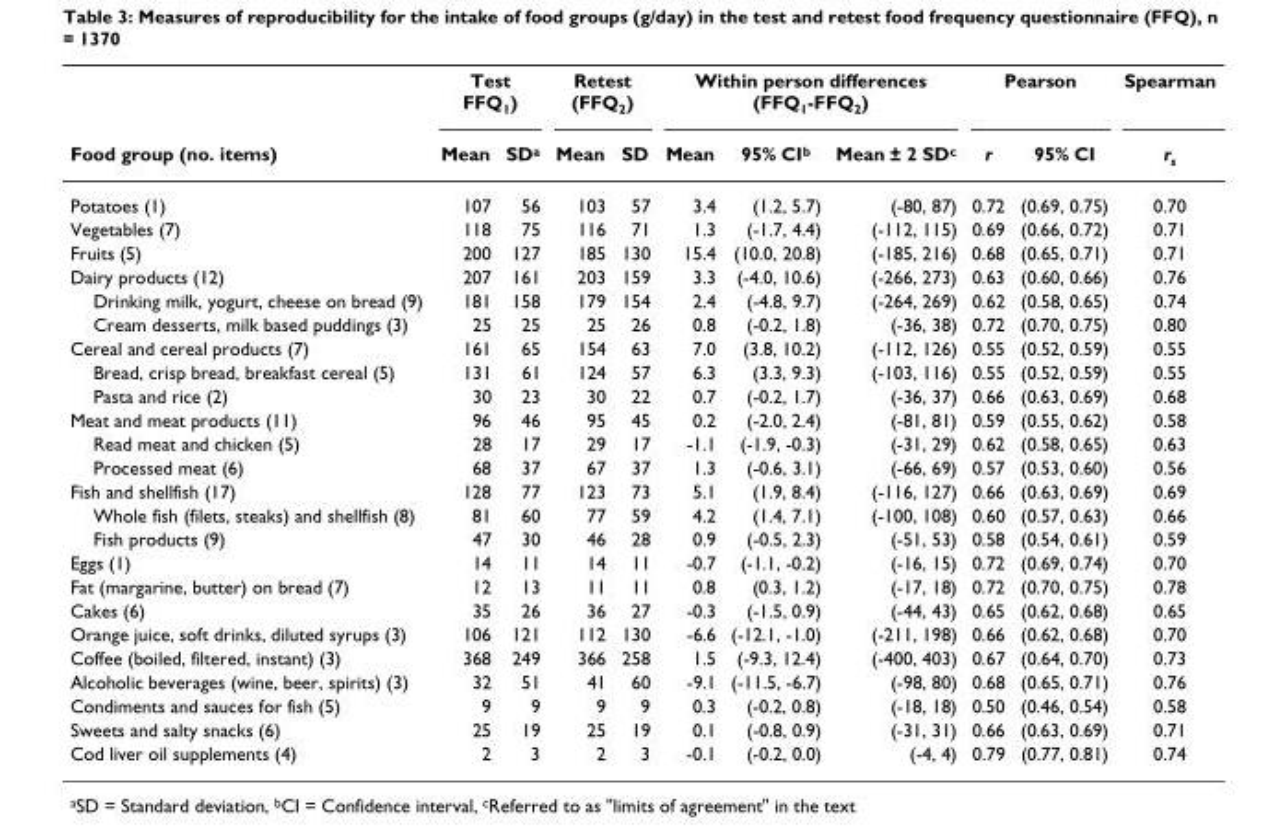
<table><thead><tr><td rowspan="2">Food group (no. items)</td><td colspan="2">Test FFQ1)</td><td colspan="2">Retest (FFQ<sub>2</sub>)</td><td colspan="3">Within person differences (FFQ<sub>1</sub>-FFQ<sub>2</sub>)</td><td colspan="2">Pearson</td><td rowspan="2">Spearman r<sub>s</sub></td></tr><tr><td>Mean</td><td>SD<sup>a</sup></td><td>Mean</td><td>SD</td><td>Mean</td><td>95% CI<sup>b</sup></td><td>Mean ± 2 SD<sup>c</sup></td><td>r</td><td>95% CI</td></tr></thead><tbody><tr><td>Potatoes (1)</td><td>107</td><td>56</td><td>103</td><td>57</td><td>3.4</td><td>(1.2, 5.7)</td><td>(-80, 87)</td><td>0.72</td><td>(0.69, 0.75)</td><td>0.70</td></tr><tr><td>Vegetables (7)</td><td>118</td><td>75</td><td>116</td><td>71</td><td>1.3</td><td>(-1.7, 4.4)</td><td>(-112, 115)</td><td>0.69</td><td>(0.66, 0.72)</td><td>0.71</td></tr><tr><td>Fruits (5)</td><td>200</td><td>127</td><td>185</td><td>130</td><td>15.4</td><td>(10.0, 20.8)</td><td>(-185, 216)</td><td>0.68</td><td>(0.65, 0.71)</td><td>0.71</td></tr><tr><td>Dairy products (12)</td><td>207</td><td>161</td><td>203</td><td>159</td><td>3.3</td><td>(-4.0, 10.6)</td><td>(-266, 273)</td><td>0.63</td><td>(0.60, 0.66)</td><td>0.76</td></tr><tr><td>Drinking milk, yogurt, cheese on bread (9)</td><td>181</td><td>158</td><td>179</td><td>154</td><td>2.4</td><td>(-4.8, 9.7)</td><td>(-264, 269)</td><td>0.62</td><td>(0.58, 0.65)</td><td>0.74</td></tr><tr><td>Cream desserts, milk based puddings (3)</td><td>25</td><td>25</td><td>25</td><td>26</td><td>0.8</td><td>(-0.2, 1.8)</td><td>(-36, 38)</td><td>0.72</td><td>(0.70, 0.75)</td><td>0.80</td></tr><tr><td>Cereal and cereal products (7)</td><td>161</td><td>65</td><td>154</td><td>63</td><td>7.0</td><td>(3.8, 10.2)</td><td>(-112, 126)</td><td>0.55</td><td>(0.52, 0.59)</td><td>0.55</td></tr><tr><td>Bread, crisp bread, breakfast cereal (5)</td><td>131</td><td>61</td><td>124</td><td>57</td><td>6.3</td><td>(3.3, 9.3)</td><td>(-103, 116)</td><td>0.55</td><td>(0.52, 0.59)</td><td>0.55</td></tr><tr><td>Pasta and rice (2)</td><td>30</td><td>23</td><td>30</td><td>22</td><td>0.7</td><td>(-0.2, 1.7)</td><td>(-36, 37)</td><td>0.66</td><td>(0.63, 0.69)</td><td>0.68</td></tr><tr><td>Meat and meat products (11)</td><td>96</td><td>46</td><td>95</td><td>45</td><td>0.2</td><td>(-2.0, 2.4)</td><td>(-81, 81)</td><td>0.59</td><td>(0.55, 0.62)</td><td>0.58</td></tr><tr><td>Read meat and chicken (5)</td><td>28</td><td>17</td><td>29</td><td>17</td><td>-1.1</td><td>(-1.9, -0.3)</td><td>(-31, 29)</td><td>0.62</td><td>(0.58, 0.65)</td><td>0.63</td></tr><tr><td>Processed meat (6)</td><td>68</td><td>37</td><td>67</td><td>37</td><td>1.3</td><td>(-0.6, 3.1)</td><td>(-66, 69)</td><td>0.57</td><td>(0.53, 0.60)</td><td>0.56</td></tr><tr><td>Fish and shellfish (17)</td><td>128</td><td>77</td><td>123</td><td>73</td><td>5.1</td><td>(1.9, 8.4)</td><td>(-116, 127)</td><td>0.66</td><td>(0.63, 0.69)</td><td>0.69</td></tr><tr><td>Whole fish (filets, steaks) and shellfish (8)</td><td>81</td><td>60</td><td>77</td><td>59</td><td>4.2</td><td>(1.4, 7.1)</td><td>(-100, 108)</td><td>0.60</td><td>(0.57, 0.63)</td><td>0.66</td></tr><tr><td>Fish products (9)</td><td>47</td><td>30</td><td>46</td><td>28</td><td>0.9</td><td>(-0.5, 2.3)</td><td>(-51, 53)</td><td>0.58</td><td>(0.54, 0.61)</td><td>0.59</td></tr><tr><td>Eggs (1)</td><td>14</td><td>11</td><td>14</td><td>11</td><td>-0.7</td><td>(-1.1, -0.2)</td><td>(-16, 15)</td><td>0.72</td><td>(0.69, 0.74)</td><td>0.70</td></tr><tr><td>Fat (margarine, butter) on bread (7)</td><td>12</td><td>13</td><td>11</td><td>11</td><td>0.8</td><td>(0.3, 1.2)</td><td>(-17, 18)</td><td>0.72</td><td>(0.70, 0.75)</td><td>0.78</td></tr><tr><td>Cakes (6)</td><td>35</td><td>26</td><td>36</td><td>27</td><td>-0.3</td><td>(-1.5, 0.9)</td><td>(-44, 43)</td><td>0.65</td><td>(0.62, 0.68)</td><td>0.65</td></tr><tr><td>Orange juice, soft drinks, diluted syrups (3)</td><td>106</td><td>121</td><td>112</td><td>130</td><td>-6.6</td><td>(-12.1, -1.0)</td><td>(-211, 198)</td><td>0.66</td><td>(0.62, 0.68)</td><td>0.70</td></tr><tr><td>Coffee (boiled, filtered, instant) (3)</td><td>368</td><td>249</td><td>366</td><td>258</td><td>1.5</td><td>(-9.3, 12.4)</td><td>(-400, 403)</td><td>0.67</td><td>(0.64, 0.70)</td><td>0.73</td></tr><tr><td>Alcoholic beverages (wine, beer, spirits) (3)</td><td>32</td><td>51</td><td>41</td><td>60</td><td>-9.1</td><td>(-11.5, -6.7)</td><td>(-98, 80)</td><td>0.68</td><td>(0.65, 0.71)</td><td>0.76</td></tr><tr><td>Condiments and sauces for fish (5)</td><td>9</td><td>9</td><td>9</td><td>9</td><td>0.3</td><td>(-0.2, 0.8)</td><td>(-18, 18)</td><td>0.50</td><td>(0.46, 0.54)</td><td>0.58</td></tr><tr><td>Sweets and salty snacks (6)</td><td>25</td><td>19</td><td>25</td><td>19</td><td>0.1</td><td>(-0.8, 0.9)</td><td>(-31, 31)</td><td>0.66</td><td>(0.63, 0.69)</td><td>0.71</td></tr><tr><td>Cod liver oil supplements (4)</td><td>2</td><td>3</td><td>2</td><td>3</td><td>-0.1</td><td>(-0.2, 0.0)</td><td>(-4, 4)</td><td>0.79</td><td>(0.77, 0.81)</td><td>0.74</td></tr></tbody></table>